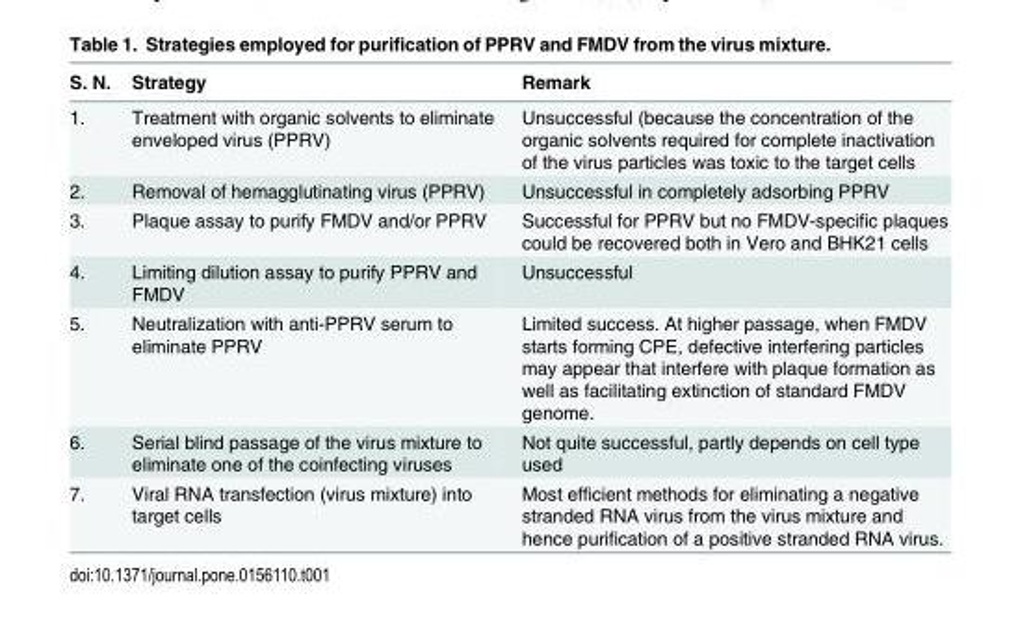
<table><thead><tr><td>S. N.</td><td>Strategy</td><td>Remark</td></tr></thead><tbody><tr><td>1.</td><td>Treatment with organic solvents to eliminate enveloped virus (PPRV)</td><td>Unsuccessful (because the concentration of the organic solvents required for complete inactivation of the virus particles was toxic to the target cells</td></tr><tr><td>2.</td><td>Removal of hemagglutinating virus (PPRV)</td><td>Unsuccessful in completely adsorbing PPRV</td></tr><tr><td>3.</td><td>Plaque assay to purify FMDV and/or PPRV</td><td>Successful for PPRV but no FMDV-specific plaques could be recovered both in Vero and BHK21 cells</td></tr><tr><td>4.</td><td>Limiting dilution assay to purify PPRV and FMDV</td><td>Unsuccessful</td></tr><tr><td>5.</td><td>Neutralization with anti-PPRV serum to eliminate PPRV</td><td>Limited success. At higher passage, when FMDV starts forming CPE, defective interfering particles may appear that interfere with plaque formation as well as facilitating extinction of standard FMDV genome.</td></tr><tr><td>6.</td><td>Serial blind passage of the virus mixture to eliminate one of the coinfecting viruses</td><td>Not quite successful, partly depends on cell type used</td></tr><tr><td>7.</td><td>Viral RNA transfection (virus mixture) into target cells</td><td>Most efficient methods for eliminating a negative stranded RNA virus from the virus mixture and hence purification of a positive stranded RNA virus.</td></tr></tbody></table>